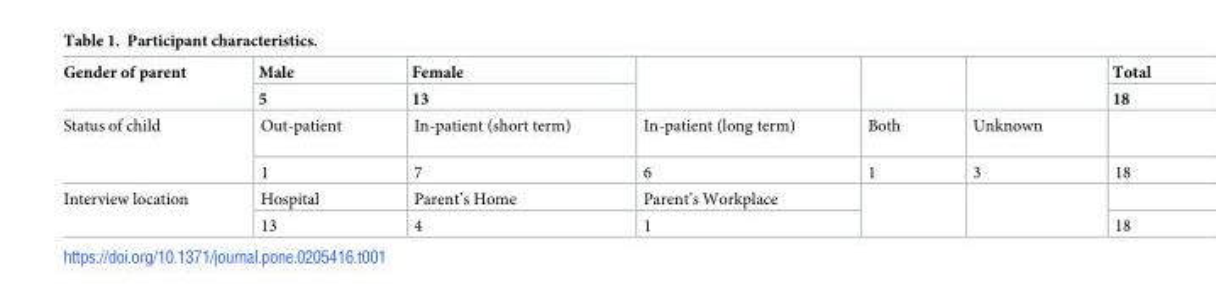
<table><thead><tr><td rowspan="2">Gender of parent</td><td rowspan="2">Male 5</td><td rowspan="2">Female 13</td><td rowspan="2"></td><td rowspan="2"></td><td rowspan="2"></td><td rowspan="2">Total 18</td></tr><tr></tr></thead><tbody><tr><td rowspan="2">Status of child</td><td>Out-patient</td><td>In-patient (short term)</td><td>In-patient (long term)</td><td>Both</td><td>Unknown</td><td></td></tr><tr><td>1</td><td>7</td><td>6</td><td>1</td><td>3</td><td>18</td></tr><tr><td rowspan="2">Interview location</td><td>Hospital</td><td>Parent’s Home</td><td>Parent’s Workplace</td><td rowspan="2"></td><td rowspan="2"></td><td></td></tr><tr><td>13</td><td>4</td><td>1</td><td>18</td></tr></tbody></table>